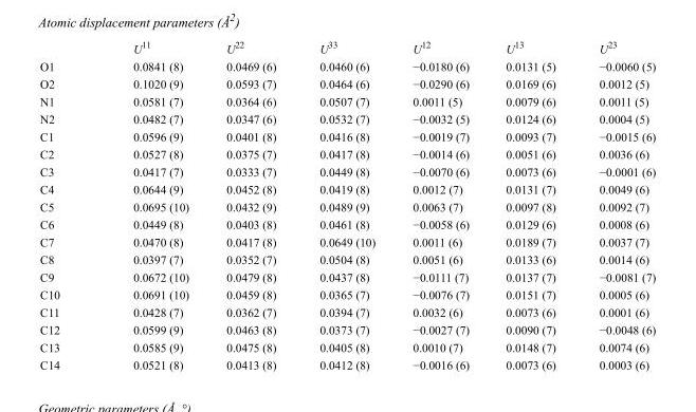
<table><thead><tr><td></td><td>U<sup>11</sup></td><td>U<sup>22</sup></td><td>U<sup>33</sup></td><td>U<sup>12</sup></td><td>U<sup>13</sup></td><td>U<sup>23</sup></td></tr></thead><tbody><tr><td>O1</td><td>0.0841 (8)</td><td>0.0469 (6)</td><td>0.0460 (6)</td><td>−0.0180 (6)</td><td>0.0131 (5)</td><td>−0.0060 (5)</td></tr><tr><td>O2</td><td>0.1020 (9)</td><td>0.0593 (7)</td><td>0.0464 (6)</td><td>−0.0290 (6)</td><td>0.0169 (6)</td><td>0.0012 (5)</td></tr><tr><td>N1</td><td>0.0581 (7)</td><td>0.0364 (6)</td><td>0.0507 (7)</td><td>0.0011 (5)</td><td>0.0079 (6)</td><td>0.0011 (5)</td></tr><tr><td>N2</td><td>0.0482 (7)</td><td>0.0347 (6)</td><td>0.0532 (7)</td><td>−0.0032 (5)</td><td>0.0124 (6)</td><td>0.0004 (5)</td></tr><tr><td>C1</td><td>0.0596 (9)</td><td>0.0401 (8)</td><td>0.0416 (8)</td><td>−0.0019 (7)</td><td>0.0093 (7)</td><td>−0.0015 (6)</td></tr><tr><td>C2</td><td>0.0527 (8)</td><td>0.0375 (7)</td><td>0.0417 (8)</td><td>−0.0014 (6)</td><td>0.0051 (6)</td><td>0.0036 (6)</td></tr><tr><td>C3</td><td>0.0417 (7)</td><td>0.0333 (7)</td><td>0.0449 (8)</td><td>−0.0070 (6)</td><td>0.0073 (6)</td><td>−0.0001 (6)</td></tr><tr><td>C4</td><td>0.0644 (9)</td><td>0.0452 (8)</td><td>0.0419 (8)</td><td>0.0012 (7)</td><td>0.0131 (7)</td><td>0.0049 (6)</td></tr><tr><td>C5</td><td>0.0695 (10)</td><td>0.0432 (9)</td><td>0.0489 (9)</td><td>0.0063 (7)</td><td>0.0097 (8)</td><td>0.0092 (7)</td></tr><tr><td>C6</td><td>0.0449 (8)</td><td>0.0403 (8)</td><td>0.0461 (8)</td><td>−0.0058 (6)</td><td>0.0129 (6)</td><td>0.0008 (6)</td></tr><tr><td>C7</td><td>0.0470 (8)</td><td>0.0417 (8)</td><td>0.0649 (10)</td><td>0.0011 (6)</td><td>0.0189 (7)</td><td>0.0037 (7)</td></tr><tr><td>C8</td><td>0.0397 (7)</td><td>0.0352 (7)</td><td>0.0504 (8)</td><td>0.0051 (6)</td><td>0.0133 (6)</td><td>0.0014 (6)</td></tr><tr><td>C9</td><td>0.0672 (10)</td><td>0.0479 (8)</td><td>0.0437 (8)</td><td>−0.0111 (7)</td><td>0.0137 (7)</td><td>−0.0081 (7)</td></tr><tr><td>C10</td><td>0.0691 (10)</td><td>0.0459 (8)</td><td>0.0365 (7)</td><td>−0.0076 (7)</td><td>0.0151 (7)</td><td>0.0005 (6)</td></tr><tr><td>C11</td><td>0.0428 (7)</td><td>0.0362 (7)</td><td>0.0394 (7)</td><td>0.0032 (6)</td><td>0.0073 (6)</td><td>0.0001 (6)</td></tr><tr><td>C12</td><td>0.0599 (9)</td><td>0.0463 (8)</td><td>0.0373 (7)</td><td>−0.0027 (7)</td><td>0.0090 (7)</td><td>−0.0048 (6)</td></tr><tr><td>C13</td><td>0.0585 (9)</td><td>0.0475 (8)</td><td>0.0405 (8)</td><td>0.0010 (7)</td><td>0.0148 (7)</td><td>0.0074 (6)</td></tr><tr><td>C14</td><td>0.0521 (8)</td><td>0.0413 (8)</td><td>0.0412 (8)</td><td>−0.0016 (6)</td><td>0.0073 (6)</td><td>0.0003 (6)</td></tr></tbody></table>